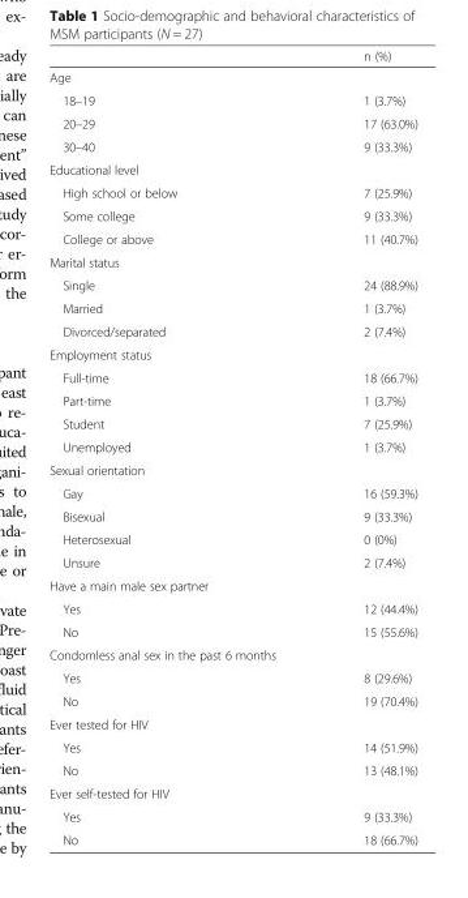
<table><thead><tr><td></td><td>n (%)</td></tr></thead><tbody><tr><td colspan="2">Age</td></tr><tr><td>18–19</td><td>1 (3.7%)</td></tr><tr><td>20–29</td><td>17 (63.0%)</td></tr><tr><td>30–40</td><td>9 (33.3%)</td></tr><tr><td colspan="2">Educational level</td></tr><tr><td>High school or below</td><td>7 (25.9%)</td></tr><tr><td>Some college</td><td>9 (33.3%)</td></tr><tr><td>College or above</td><td>11 (40.7%)</td></tr><tr><td colspan="2">Marital status</td></tr><tr><td>Single</td><td>24 (88.9%)</td></tr><tr><td>Married</td><td>1 (3.7%)</td></tr><tr><td>Divorced/separated</td><td>2 (7.4%)</td></tr><tr><td colspan="2">Employment status</td></tr><tr><td>Full-time</td><td>18 (66.7%)</td></tr><tr><td>Part-time</td><td>1 (3.7%)</td></tr><tr><td>Student</td><td>7 (25.9%)</td></tr><tr><td>Unemployed</td><td>1 (3.7%)</td></tr><tr><td colspan="2">Sexual orientation</td></tr><tr><td>Gay</td><td>16 (59.3%)</td></tr><tr><td>Bisexual</td><td>9 (33.3%)</td></tr><tr><td>Heterosexual</td><td>0 (0%)</td></tr><tr><td>Unsure</td><td>2 (7.4%)</td></tr><tr><td colspan="2">Have a main male sex partner</td></tr><tr><td>Yes</td><td>12 (44.4%)</td></tr><tr><td>No</td><td>15 (55.6%)</td></tr><tr><td colspan="2">Condomless anal sex in the past 6 months</td></tr><tr><td>Yes</td><td>8 (29.6%)</td></tr><tr><td>No</td><td>19 (70.4%)</td></tr><tr><td colspan="2">Ever tested for HIV</td></tr><tr><td>Yes</td><td>14 (51.9%)</td></tr><tr><td>No</td><td>13 (48.1%)</td></tr><tr><td colspan="2">Ever self-tested for HIV</td></tr><tr><td>Yes</td><td>9 (33.3%)</td></tr><tr><td>No</td><td>18 (66.7%)</td></tr></tbody></table>